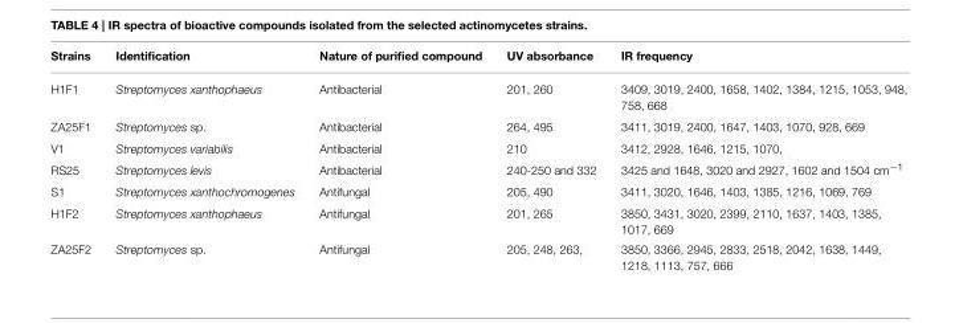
<table><thead><tr><td>Strains</td><td>Identification</td><td>Nature of purified compound</td><td>UV absorbance</td><td>IR frequency</td></tr></thead><tbody><tr><td>H1F1</td><td>Streptomyces xanthophaeus</td><td>Antibacterial</td><td>201, 260</td><td>3409, 3019, 2400, 1658, 1402, 1384, 1215, 1053, 948, 758, 668</td></tr><tr><td>ZA25F1</td><td>Streptomyces sp.</td><td>Antibacterial</td><td>264, 495</td><td>3411, 3019, 2400, 1647, 1403, 1070, 928, 669</td></tr><tr><td>V1</td><td>Streptomyces variabilis</td><td>Antibacterial</td><td>210</td><td>3412, 2928, 1646, 1215, 1070,</td></tr><tr><td>RS25</td><td>Streptomyces levis</td><td>Antibacterial</td><td>240-250 and 332</td><td>3425 and 1648, 3020 and 2927, 1602 and 1504 cm<sup>−1</sup></td></tr><tr><td>S1</td><td>Streptomyces xanthochromogenes</td><td>Antifungal</td><td>205, 490</td><td>3411, 3020, 1646, 1403, 1385, 1216, 1069, 769</td></tr><tr><td>H1F2</td><td>Streptomyces xanthophaeus</td><td>Antifungal</td><td>201, 265</td><td>3850, 3431, 3020, 2399, 2110, 1637, 1403, 1385, 1017, 669</td></tr><tr><td>ZA25F2</td><td>Streptomyces sp.</td><td>Antifungal</td><td>205, 248, 263,</td><td>3850, 3366, 2945, 2833, 2518, 2042, 1638, 1449, 1218, 1113, 757, 666</td></tr></tbody></table>